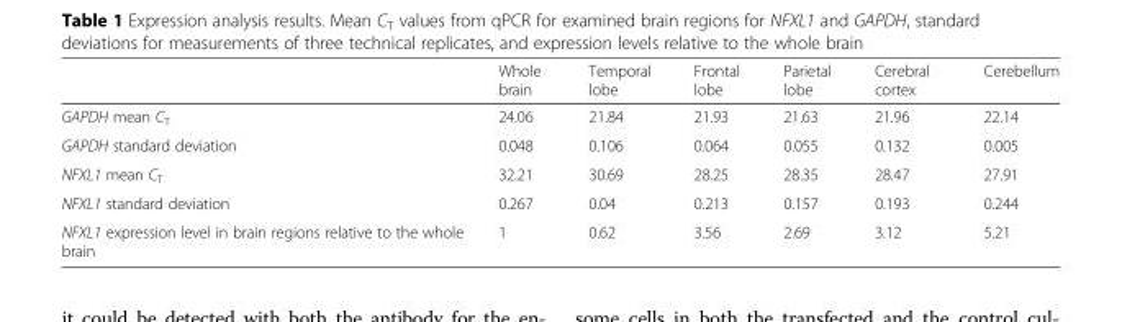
<table><thead><tr><td></td><td>Whole brain</td><td>Temporal lobe</td><td>Frontal lobe</td><td>Parietal lobe</td><td>Cerebral cortex</td><td>Cerebellum</td></tr></thead><tbody><tr><td>GAPDH mean C<sub>T</sub></td><td>24.06</td><td>21.84</td><td>21.93</td><td>21.63</td><td>21.96</td><td>22.14</td></tr><tr><td>GAPDH standard deviation</td><td>0.048</td><td>0.106</td><td>0.064</td><td>0.055</td><td>0.132</td><td>0.005</td></tr><tr><td>NFXL1 mean C<sub>T</sub></td><td>32.21</td><td>30.69</td><td>28.25</td><td>28.35</td><td>28.47</td><td>27.91</td></tr><tr><td>NFXL1 standard deviation</td><td>0.267</td><td>0.04</td><td>0.213</td><td>0.157</td><td>0.193</td><td>0.244</td></tr><tr><td>NFXL1 expression level in brain regions relative to the whole brain</td><td>1</td><td>0.62</td><td>3.56</td><td>2.69</td><td>3.12</td><td>5.21</td></tr></tbody></table>